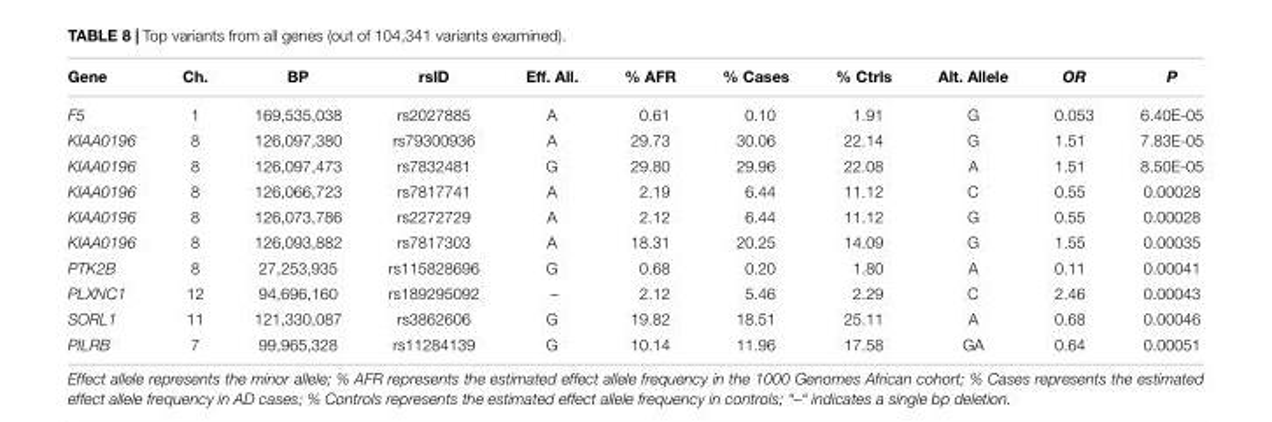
<table><thead><tr><td>Gene</td><td>Ch.</td><td>BP</td><td>rsID</td><td>Eff. All.</td><td>% AFR</td><td>% Cases</td><td>% Ctrls</td><td>Alt. Allele</td><td>OR</td><td>P</td></tr></thead><tbody><tr><td>F5</td><td>1</td><td>169,535,038</td><td>rs2027885</td><td>A</td><td>0.61</td><td>0.10</td><td>1.91</td><td>G</td><td>0.053</td><td>6.40E-05</td></tr><tr><td>KIAA0196</td><td>8</td><td>126,097,380</td><td>rs79300936</td><td>A</td><td>29.73</td><td>30.06</td><td>22.14</td><td>G</td><td>1.51</td><td>7.83E-05</td></tr><tr><td>KIAA0196</td><td>8</td><td>126,097,473</td><td>rs7832481</td><td>G</td><td>29.80</td><td>29.96</td><td>22.08</td><td>A</td><td>1.51</td><td>8.50E-05</td></tr><tr><td>KIAA0196</td><td>8</td><td>126,066,723</td><td>rs7817741</td><td>A</td><td>2.19</td><td>6.44</td><td>11.12</td><td>C</td><td>0.55</td><td>0.00028</td></tr><tr><td>KIAA0196</td><td>8</td><td>126,073,786</td><td>rs2272729</td><td>A</td><td>2.12</td><td>6.44</td><td>11.12</td><td>G</td><td>0.55</td><td>0.00028</td></tr><tr><td>KIAA0196</td><td>8</td><td>126,093,882</td><td>rs7817303</td><td>A</td><td>18.31</td><td>20.25</td><td>14.09</td><td>G</td><td>1.55</td><td>0.00035</td></tr><tr><td>PTK2B</td><td>8</td><td>27,253,935</td><td>rs115828696</td><td>G</td><td>0.68</td><td>0.20</td><td>1.80</td><td>A</td><td>0.11</td><td>0.00041</td></tr><tr><td>PLXNC1</td><td>12</td><td>94,696,160</td><td>rs189295092</td><td>–</td><td>2.12</td><td>5.46</td><td>2.29</td><td>C</td><td>2.46</td><td>0.00043</td></tr><tr><td>SORL1</td><td>11</td><td>121,330,087</td><td>rs3862606</td><td>G</td><td>19.82</td><td>18.51</td><td>25.11</td><td>A</td><td>0.68</td><td>0.00046</td></tr><tr><td>PILRB</td><td>7</td><td>99,965,328</td><td>rs11284139</td><td>G</td><td>10.14</td><td>11.96</td><td>17.58</td><td>GA</td><td>0.64</td><td>0.00051</td></tr></tbody></table>